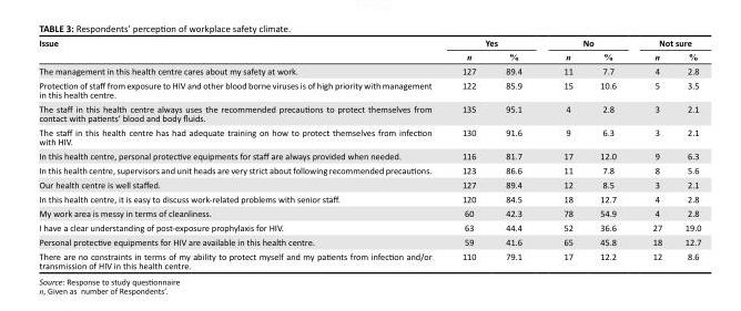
<table><thead><tr><td rowspan="2">Issue</td><td colspan="2">Yes</td><td colspan="2">No</td><td colspan="2">Not sure</td></tr><tr><td>n</td><td>%</td><td>n</td><td>%</td><td>n</td><td>%</td></tr></thead><tbody><tr><td>The management in this health centre cares about my safety at work.</td><td>127</td><td>89.4</td><td>11</td><td>7.7</td><td>4</td><td>2.8</td></tr><tr><td>Protection of staff from exposure to HIV and other blood borne viruses is of high priority with management in this health centre.</td><td>122</td><td>85.9</td><td>15</td><td>10.6</td><td>5</td><td>3.5</td></tr><tr><td>The staff in this health centre always uses the recommended precautions to protect themselves from contact with patients’ blood and body fluids.</td><td>135</td><td>95.1</td><td>4</td><td>2.8</td><td>3</td><td>2.1</td></tr><tr><td>The staff in this health centre has had adequate training on how to protect themselves from infection with HIV.</td><td>130</td><td>91.6</td><td>9</td><td>6.3</td><td>3</td><td>2.1</td></tr><tr><td>In this health centre, personal protective equipments for staff are always provided when needed.</td><td>116</td><td>81.7</td><td>17</td><td>12.0</td><td>9</td><td>6.3</td></tr><tr><td>In this health centre, supervisors and unit heads are very strict about following recommended precautions.</td><td>123</td><td>86.6</td><td>11</td><td>7.8</td><td>8</td><td>5.6</td></tr><tr><td>Our health centre is well staffed.</td><td>127</td><td>89.4</td><td>12</td><td>8.5</td><td>3</td><td>2.1</td></tr><tr><td>In this health centre, it is easy to discuss work-related problems with senior staff.</td><td>120</td><td>84.5</td><td>18</td><td>12.7</td><td>4</td><td>2.8</td></tr><tr><td>My work area is messy in terms of cleanliness.</td><td>60</td><td>42.3</td><td>78</td><td>54.9</td><td>4</td><td>2.8</td></tr><tr><td>I have a clear understanding of post-exposure prophylaxis for HIV.</td><td>63</td><td>44.4</td><td>52</td><td>36.6</td><td>27</td><td>19.0</td></tr><tr><td>Personal protective equipments for HIV are available in this health centre.</td><td>59</td><td>41.6</td><td>65</td><td>45.8</td><td>18</td><td>12.7</td></tr><tr><td>There are no constraints in terms of my ability to protect myself and my patients from infection and/or transmission of HIV in this health centre.</td><td>110</td><td>79.1</td><td>17</td><td>12.2</td><td>12</td><td>8.6</td></tr></tbody></table>